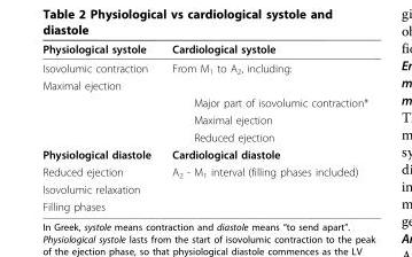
<table><thead><tr><td>Physiological systole</td><td>Cardiological systole</td></tr></thead><tbody><tr><td>Isovolumic contraction</td><td>From M<sub>1</sub> to A<sub>2</sub>, including:</td></tr><tr><td colspan="2">Maximal ejection</td></tr><tr><td></td><td>Major part of isovolumic contraction*</td></tr><tr><td></td><td>Maximal ejection</td></tr><tr><td></td><td>Reduced ejection</td></tr><tr><td>Physiological diastole</td><td>Cardiological diastole</td></tr><tr><td>Reduced ejection</td><td>A<sub>2</sub> - M<sub>1</sub> interval (filling phases included)</td></tr><tr><td colspan="2">Isovolumic relaxation</td></tr><tr><td>Filling phases</td><td></td></tr></tbody></table>